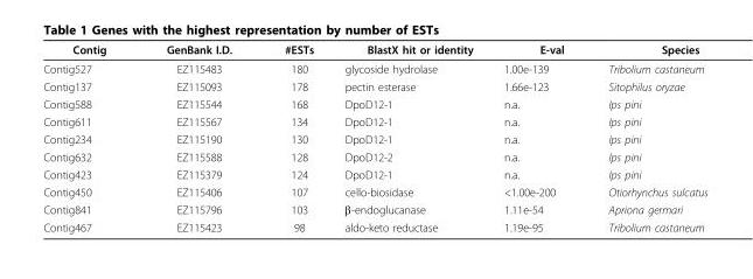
<table><thead><tr><td>Contig</td><td>GenBank I.D.</td><td>#ESTs</td><td>BlastX hit or identity</td><td>E-val</td><td>Species</td></tr></thead><tbody><tr><td>Contig527</td><td>EZ115483</td><td>180</td><td>glycoside hydrolase</td><td>1.00e-139</td><td>Tribolium castaneum</td></tr><tr><td>Contig137</td><td>EZ115093</td><td>178</td><td>pectin esterase</td><td>1.66e-123</td><td>Sitophilus oryzae</td></tr><tr><td>Contig588</td><td>EZ115544</td><td>168</td><td>DpoD12-1</td><td>n.a.</td><td>Ips pini</td></tr><tr><td>Contig611</td><td>EZ115567</td><td>134</td><td>DpoD12-1</td><td>n.a.</td><td>Ips pini</td></tr><tr><td>Contig234</td><td>EZ115190</td><td>130</td><td>DpoD12-1</td><td>n.a.</td><td>Ips pini</td></tr><tr><td>Contig632</td><td>EZ115588</td><td>128</td><td>DpoD12-2</td><td>n.a.</td><td>Ips pini</td></tr><tr><td>Contig423</td><td>EZ115379</td><td>124</td><td>DpoD12-1</td><td>n.a.</td><td>Ips pini</td></tr><tr><td>Contig450</td><td>EZ115406</td><td>107</td><td>cello-biosidase</td><td>&lt;1.00e-200</td><td>Otiorhynchus sulcatus</td></tr><tr><td>Contig841</td><td>EZ115796</td><td>103</td><td>β-endoglucanase</td><td>1.11e-54</td><td>Apriona germari</td></tr><tr><td>Contig467</td><td>EZ115423</td><td>98</td><td>aldo-keto reductase</td><td>1.19e-95</td><td>Tribolium castaneum</td></tr></tbody></table>